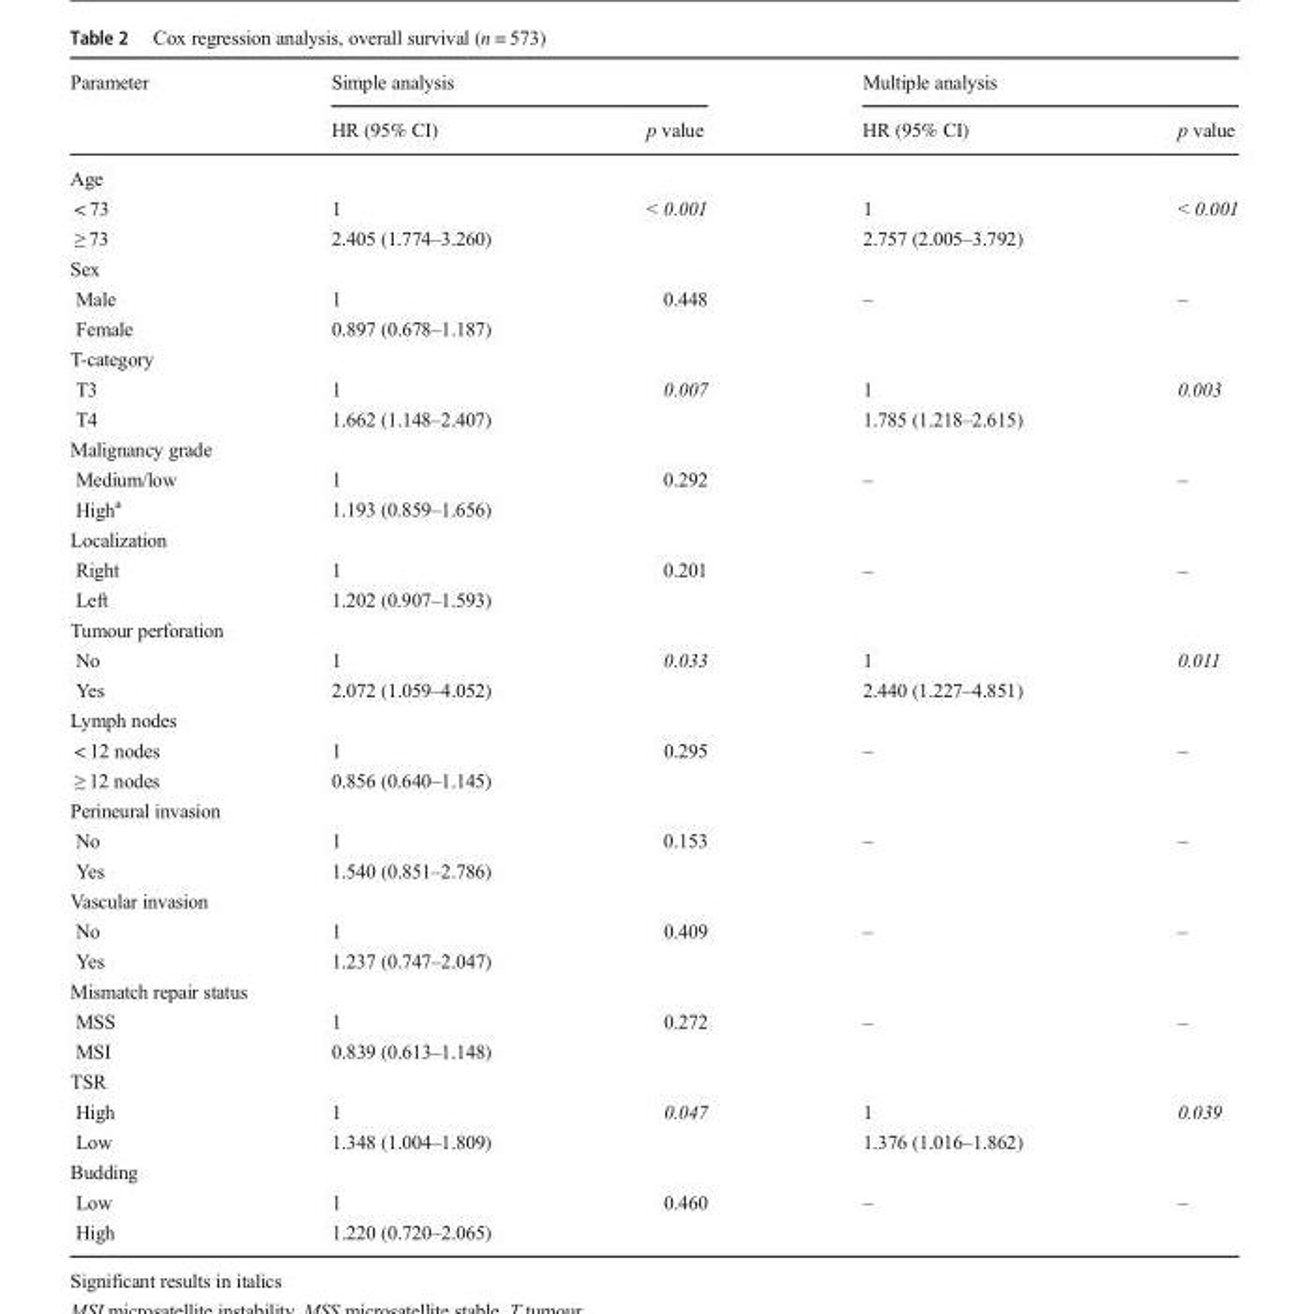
<table><thead><tr><td rowspan="2">Parameter</td><td colspan="2">Simple analysis</td><td colspan="2">Multiple analysis</td></tr><tr><td>HR (95% CI)</td><td>p value</td><td>HR (95% CI)</td><td>p value</td></tr></thead><tbody><tr><td colspan="5">Age</td></tr><tr><td>&lt; 73</td><td>1</td><td>&lt; 0.001</td><td>1</td><td>&lt; 0.001</td></tr><tr><td>≥ 73</td><td>2.405 (1.774–3.260)</td><td></td><td>2.757 (2.005–3.792)</td><td></td></tr><tr><td colspan="5">Sex</td></tr><tr><td>Male</td><td>1</td><td>0.448</td><td>–</td><td>–</td></tr><tr><td>Female</td><td>0.897 (0.678–1.187)</td><td></td><td></td><td></td></tr><tr><td colspan="5">T-category</td></tr><tr><td>T3</td><td>1</td><td>0.007</td><td>1</td><td>0.003</td></tr><tr><td>T4</td><td>1.662 (1.148–2.407)</td><td></td><td>1.785 (1.218–2.615)</td><td></td></tr><tr><td colspan="5">Malignancy grade</td></tr><tr><td>Medium/low</td><td>1</td><td>0.292</td><td>–</td><td>–</td></tr><tr><td>High<sup>a</sup></td><td>1.193 (0.859–1.656)</td><td></td><td></td><td></td></tr><tr><td colspan="5">Localization</td></tr><tr><td>Right</td><td>1</td><td>0.201</td><td>–</td><td>–</td></tr><tr><td>Left</td><td>1.202 (0.907–1.593)</td><td></td><td></td><td></td></tr><tr><td colspan="5">Tumour perforation</td></tr><tr><td>No</td><td>1</td><td>0.033</td><td>1</td><td>0.011</td></tr><tr><td>Yes</td><td>2.072 (1.059–4.052)</td><td></td><td>2.440 (1.227–4.851)</td><td></td></tr><tr><td colspan="5">Lymph nodes</td></tr><tr><td>&lt; 12 nodes</td><td>1</td><td>0.295</td><td>–</td><td>–</td></tr><tr><td>≥ 12 nodes</td><td>0.856 (0.640–1.145)</td><td></td><td></td><td></td></tr><tr><td colspan="5">Perineural invasion</td></tr><tr><td>No</td><td>1</td><td>0.153</td><td>–</td><td>–</td></tr><tr><td>Yes</td><td>1.540 (0.851–2.786)</td><td></td><td></td><td></td></tr><tr><td colspan="5">Vascular invasion</td></tr><tr><td>No</td><td>1</td><td>0.409</td><td>–</td><td>–</td></tr><tr><td>Yes</td><td>1.237 (0.747–2.047)</td><td></td><td></td><td></td></tr><tr><td colspan="5">Mismatch repair status</td></tr><tr><td>MSS</td><td>1</td><td>0.272</td><td>–</td><td>–</td></tr><tr><td>MSI</td><td>0.839 (0.613–1.148)</td><td></td><td></td><td></td></tr><tr><td colspan="5">TSR</td></tr><tr><td>High</td><td>1</td><td>0.047</td><td>1</td><td>0.039</td></tr><tr><td>Low</td><td>1.348 (1.004–1.809)</td><td></td><td>1.376 (1.016–1.862)</td><td></td></tr><tr><td colspan="5">Budding</td></tr><tr><td>Low</td><td>1</td><td>0.460</td><td>–</td><td>–</td></tr><tr><td>High</td><td>1.220 (0.720–2.065)</td><td></td><td></td><td></td></tr></tbody></table>